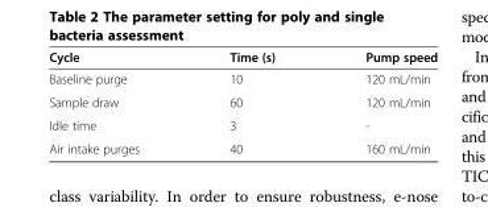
<table><thead><tr><td>Cycle</td><td>Time (s)</td><td>Pump speed</td></tr></thead><tbody><tr><td>Baseline purge</td><td>10</td><td>120 mL/min</td></tr><tr><td>Sample draw</td><td>60</td><td>120 mL/min</td></tr><tr><td>Idle time</td><td>3</td><td>-</td></tr><tr><td>Air intake purges</td><td>40</td><td>160 mL/min</td></tr></tbody></table>